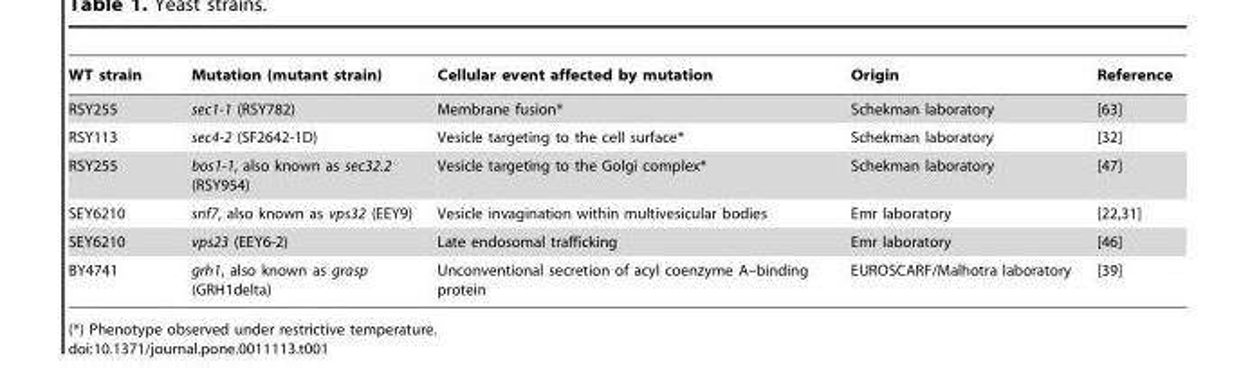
<table><thead><tr><td>WT strain</td><td>Mutation (mutant strain)</td><td>Cellular event affected by mutation</td><td>Origin</td><td>Reference</td></tr></thead><tbody><tr><td>RSY255</td><td>sec1-1 (RSY782)</td><td>Membrane fusion*</td><td>Schekman laboratory</td><td>[63]</td></tr><tr><td>RSY113</td><td>sec4-2 (SF2642-1D)</td><td>Vesicle targeting to the cell surface*</td><td>Schekman laboratory</td><td>[32]</td></tr><tr><td>RSY255</td><td>bos1-1, also known as sec32.2 (RSY954)</td><td>Vesicle targeting to the Golgi complex*</td><td>Schekman laboratory</td><td>[47]</td></tr><tr><td>SEY6210</td><td>snf7, also known as vps32 (EEY9)</td><td>Vesicle invagination within multivesicular bodies</td><td>Emr laboratory</td><td>[22,31]</td></tr><tr><td>SEY6210</td><td>vps23 (EEY6-2)</td><td>Late endosomal trafficking</td><td>Emr laboratory</td><td>[46]</td></tr><tr><td>BY4741</td><td>grh1, also known as grasp (GRH1delta)</td><td>Unconventional secretion of acyl coenzyme A–binding protein</td><td>EUROSCARF/Malhotra laboratory</td><td>[39]</td></tr></tbody></table>